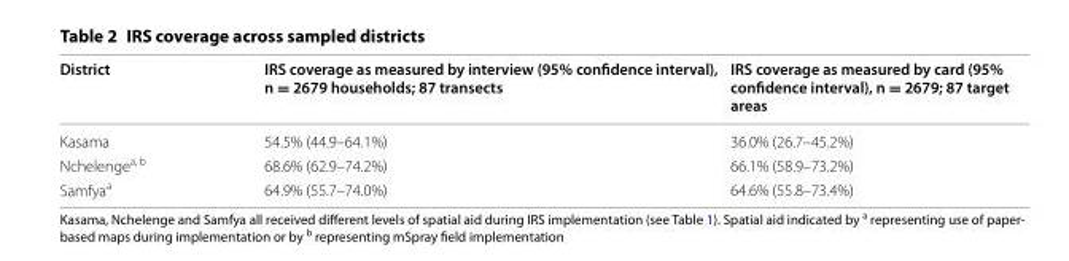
<table><thead><tr><td>District</td><td>IRS coverage as measured by interview (95% confidence interval), n = 2679 households; 87 transects</td><td>IRS coverage as measured by card (95% confidence interval), n = 2679; 87 target areas</td></tr></thead><tbody><tr><td>Kasama</td><td>54.5% (44.9–64.1%)</td><td>36.0% (26.7–45.2%)</td></tr><tr><td>Nchelenge<sup>a, b</sup></td><td>68.6% (62.9–74.2%)</td><td>66.1% (58.9–73.2%)</td></tr><tr><td>Samfya<sup>a</sup></td><td>64.9% (55.7–74.0%)</td><td>64.6% (55.8–73.4%)</td></tr></tbody></table>